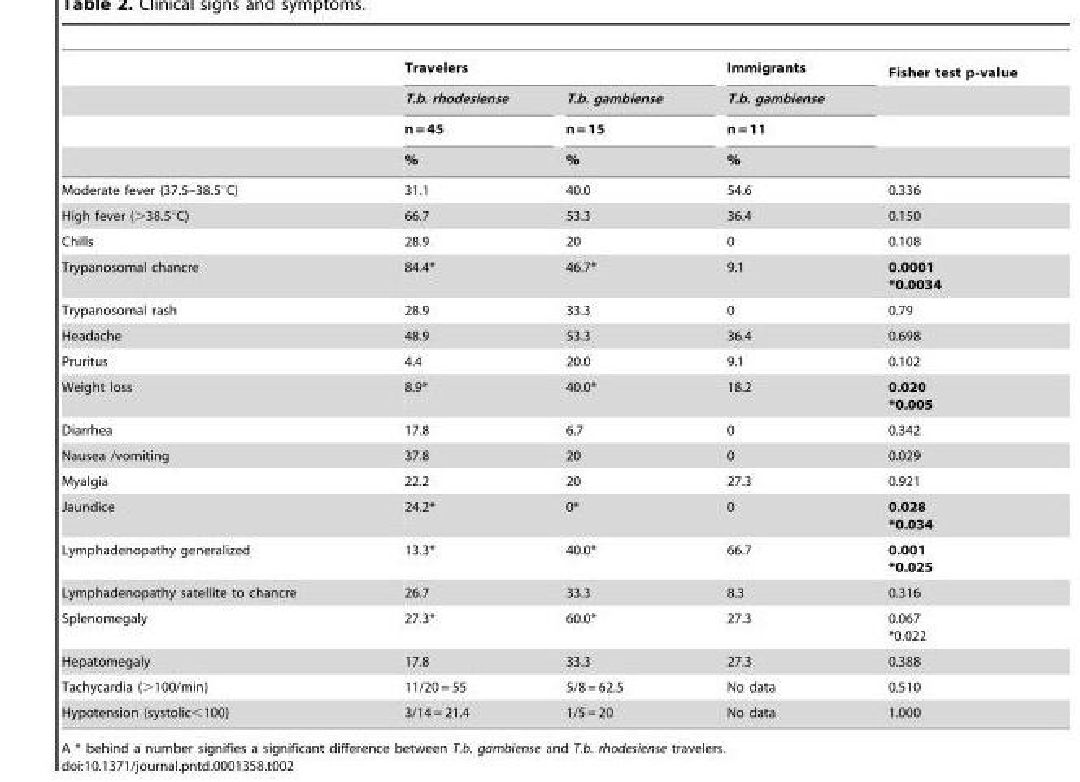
<table><thead><tr><td rowspan="4"></td><td colspan="2">Travelers</td><td rowspan="4">Immigrants T.b. gambiense n = 11 %</td><td rowspan="4">Fisher test p-value</td></tr><tr><td rowspan="3">T.b. rhodesiense n = 45 %</td><td rowspan="3">T.b. gambiense n = 15 %</td></tr><tr></tr><tr></tr></thead><tbody><tr><td>Moderate fever (37.5–38.5°C)</td><td>31.1</td><td>40.0</td><td>54.6</td><td>0.336</td></tr><tr><td>High fever (&gt;38.5°C)</td><td>66.7</td><td>53.3</td><td>36.4</td><td>0.150</td></tr><tr><td>Chills</td><td>28.9</td><td>20</td><td>0</td><td>0.108</td></tr><tr><td>Trypanosomal chancre</td><td>84.4*</td><td>46.7*</td><td>9.1</td><td>0.0001 *0.0034</td></tr><tr><td>Trypanosomal rash</td><td>28.9</td><td>33.3</td><td>0</td><td>0.79</td></tr><tr><td>Headache</td><td>48.9</td><td>53.3</td><td>36.4</td><td>0.698</td></tr><tr><td>Pruritus</td><td>4.4</td><td>20.0</td><td>9.1</td><td>0.102</td></tr><tr><td>Weight loss</td><td>8.9*</td><td>40.0*</td><td>18.2</td><td>0.020 *0.005</td></tr><tr><td>Diarrhea</td><td>17.8</td><td>6.7</td><td>0</td><td>0.342</td></tr><tr><td>Nausea /vomiting</td><td>37.8</td><td>20</td><td>0</td><td>0.029</td></tr><tr><td>Myalgia</td><td>22.2</td><td>20</td><td>27.3</td><td>0.921</td></tr><tr><td>Jaundice</td><td>24.2*</td><td>0*</td><td>0</td><td>0.028 *0.034</td></tr><tr><td>Lymphadenopathy generalized</td><td>13.3*</td><td>40.0*</td><td>66.7</td><td>0.001 *0.025</td></tr><tr><td>Lymphadenopathy satellite to chancre</td><td>26.7</td><td>33.3</td><td>8.3</td><td>0.316</td></tr><tr><td>Splenomegaly</td><td>27.3*</td><td>60.0*</td><td>27.3</td><td>0.067 *0.022</td></tr><tr><td>Hepatomegaly</td><td>17.8</td><td>33.3</td><td>27.3</td><td>0.388</td></tr><tr><td>Tachycardia (&gt;100/min)</td><td>11/20 = 55</td><td>5/8 = 62.5</td><td>No data</td><td>0.510</td></tr><tr><td>Hypotension (systolic&lt;100)</td><td>3/14 = 21.4</td><td>1/5 = 20</td><td>No data</td><td>1.000</td></tr></tbody></table>